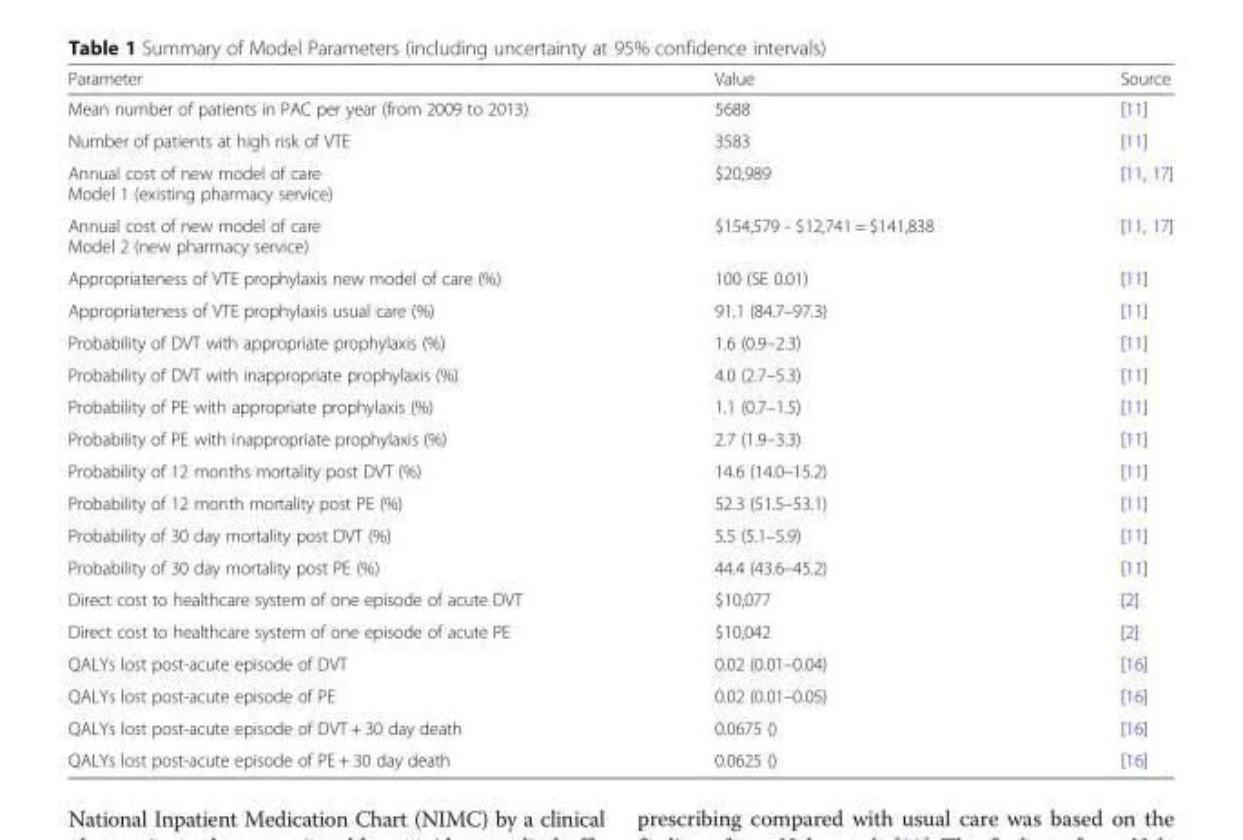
<table><thead><tr><td>Parameter</td><td>Value</td><td>Source</td></tr></thead><tbody><tr><td>Mean number of patients in PAC per year (from 2009 to 2013)</td><td>5688</td><td>[11]</td></tr><tr><td>Number of patients at high risk of VTE</td><td>3583</td><td>[11]</td></tr><tr><td>Annual cost of new model of care Model 1 (existing pharmacy service)</td><td>$20,989</td><td>[11, 17]</td></tr><tr><td>Annual cost of new model of care Model 2 (new pharmacy service)</td><td>$154,579 - $12,741 = $141,838</td><td>[11, 17]</td></tr><tr><td>Appropriateness of VTE prophylaxis new model of care (%)</td><td>100 (SE 0.01)</td><td>[11]</td></tr><tr><td>Appropriateness of VTE prophylaxis usual care (%)</td><td>91.1 (84.7–97.3)</td><td>[11]</td></tr><tr><td>Probability of DVT with appropriate prophylaxis (%)</td><td>1.6 (0.9–2.3)</td><td>[11]</td></tr><tr><td>Probability of DVT with inappropriate prophylaxis (%)</td><td>4.0 (2.7–5.3)</td><td>[11]</td></tr><tr><td>Probability of PE with appropriate prophylaxis (%)</td><td>1.1 (0.7–1.5)</td><td>[11]</td></tr><tr><td>Probability of PE with inappropriate prophylaxis (%)</td><td>2.7 (1.9–3.3)</td><td>[11]</td></tr><tr><td>Probability of 12 months mortality post DVT (%)</td><td>14.6 (14.0–15.2)</td><td>[11]</td></tr><tr><td>Probability of 12 month mortality post PE (%)</td><td>52.3 (51.5–53.1)</td><td>[11]</td></tr><tr><td>Probability of 30 day mortality post DVT (%)</td><td>5.5 (5.1–5.9)</td><td>[11]</td></tr><tr><td>Probability of 30 day mortality post PE (%)</td><td>44.4 (43.6–45.2)</td><td>[11]</td></tr><tr><td>Direct cost to healthcare system of one episode of acute DVT</td><td>$10,077</td><td>[2]</td></tr><tr><td>Direct cost to healthcare system of one episode of acute PE</td><td>$10,042</td><td>[2]</td></tr><tr><td>QALYs lost post-acute episode of DVT</td><td>0.02 (0.01–0.04)</td><td>[16]</td></tr><tr><td>QALYs lost post-acute episode of PE</td><td>0.02 (0.01–0.05)</td><td>[16]</td></tr><tr><td>QALYs lost post-acute episode of DVT + 30 day death</td><td>0.0675 ()</td><td>[16]</td></tr><tr><td>QALYs lost post-acute episode of PE + 30 day death</td><td>0.0625 ()</td><td>[16]</td></tr></tbody></table>